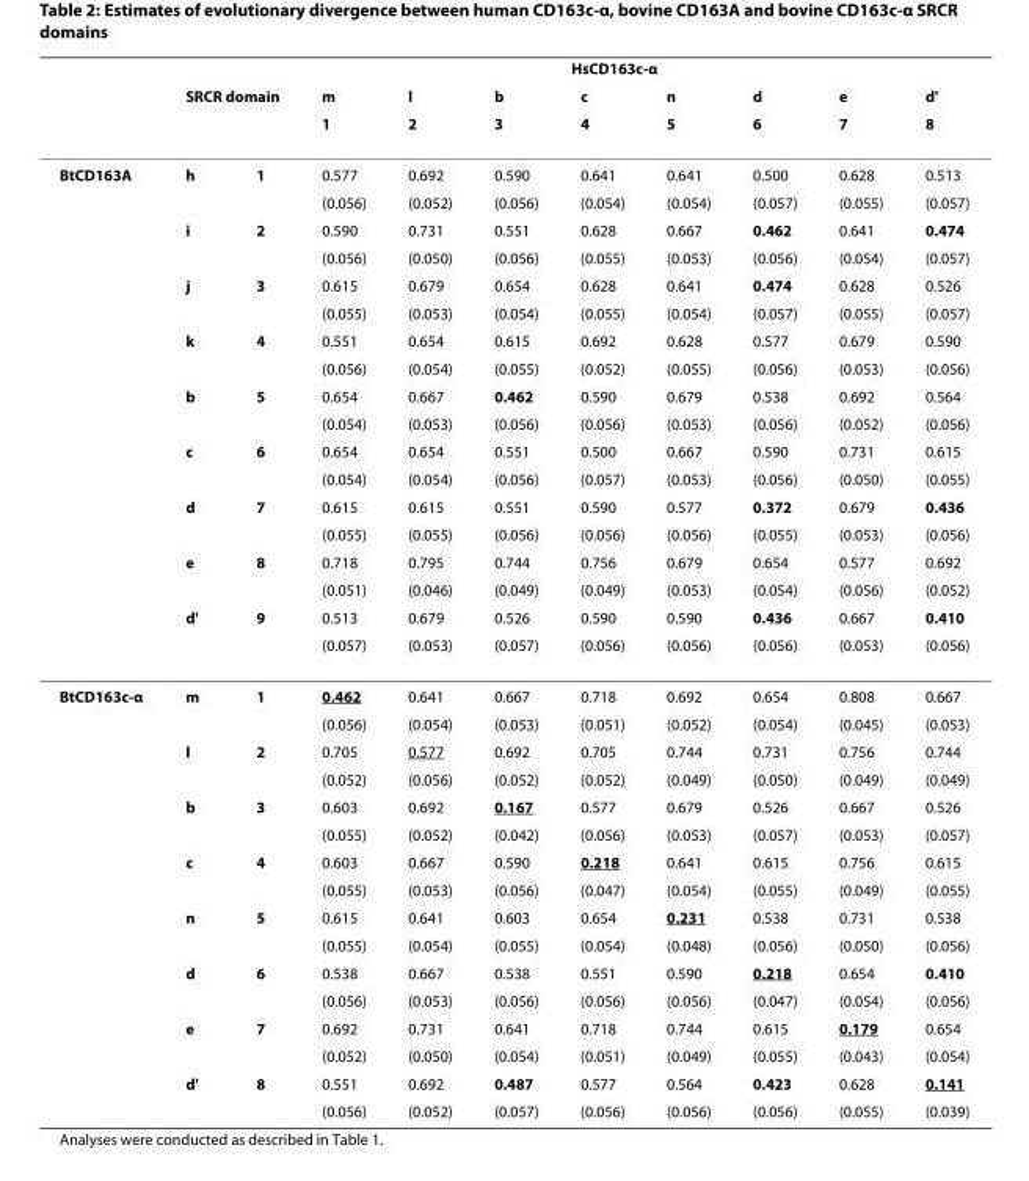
<table><thead><tr><td rowspan="3"></td><td></td><td colspan="9">HsCD163c-α</td></tr><tr><td colspan="2">SRCR domain</td><td rowspan="2">m 1</td><td rowspan="2">l 2</td><td rowspan="2">b 3</td><td rowspan="2">c 4</td><td rowspan="2">n 5</td><td rowspan="2">d 6</td><td rowspan="2">e 7</td><td rowspan="2">d&#x27; 8</td></tr><tr><td></td><td></td></tr></thead><tbody><tr><td rowspan="18">BtCD163A</td><td>h</td><td>1</td><td>0.577</td><td>0.692</td><td>0.590</td><td>0.641</td><td>0.641</td><td>0.500</td><td>0.628</td><td>0.513</td></tr><tr><td></td><td></td><td>(0.056)</td><td>(0.052)</td><td>(0.056)</td><td>(0.054)</td><td>(0.054)</td><td>(0.057)</td><td>(0.055)</td><td>(0.057)</td></tr><tr><td>i</td><td>2</td><td>0.590</td><td>0.731</td><td>0.551</td><td>0.628</td><td>0.667</td><td>0.462</td><td>0.641</td><td>0.474</td></tr><tr><td></td><td></td><td>(0.056)</td><td>(0.050)</td><td>(0.056)</td><td>(0.055)</td><td>(0.053)</td><td>(0.056)</td><td>(0.054)</td><td>(0.057)</td></tr><tr><td>j</td><td>3</td><td>0.615</td><td>0.679</td><td>0.654</td><td>0.628</td><td>0.641</td><td>0.474</td><td>0.628</td><td>0.526</td></tr><tr><td></td><td></td><td>(0.055)</td><td>(0.053)</td><td>(0.054)</td><td>(0.055)</td><td>(0.054)</td><td>(0.057)</td><td>(0.055)</td><td>(0.057)</td></tr><tr><td>k</td><td>4</td><td>0.551</td><td>0.654</td><td>0.615</td><td>0.692</td><td>0.628</td><td>0.577</td><td>0.679</td><td>0.590</td></tr><tr><td></td><td></td><td>(0.056)</td><td>(0.054)</td><td>(0.055)</td><td>(0.052)</td><td>(0.055)</td><td>(0.056)</td><td>(0.053)</td><td>(0.056)</td></tr><tr><td>b</td><td>5</td><td>0.654</td><td>0.667</td><td>0.462</td><td>0.590</td><td>0.679</td><td>0.538</td><td>0.692</td><td>0.564</td></tr><tr><td></td><td></td><td>(0.054)</td><td>(0.053)</td><td>(0.056)</td><td>(0.056)</td><td>(0.053)</td><td>(0.056)</td><td>(0.052)</td><td>(0.056)</td></tr><tr><td>c</td><td>6</td><td>0.654</td><td>0.654</td><td>0.551</td><td>0.500</td><td>0.667</td><td>0.590</td><td>0.731</td><td>0.615</td></tr><tr><td></td><td></td><td>(0.054)</td><td>(0.054)</td><td>(0.056)</td><td>(0.057)</td><td>(0.053)</td><td>(0.056)</td><td>(0.050)</td><td>(0.055)</td></tr><tr><td>d</td><td>7</td><td>0.615</td><td>0.615</td><td>0.551</td><td>0.590</td><td>0.577</td><td>0.372</td><td>0.679</td><td>0.436</td></tr><tr><td></td><td></td><td>(0.055)</td><td>(0.055)</td><td>(0.056)</td><td>(0.056)</td><td>(0.056)</td><td>(0.055)</td><td>(0.053)</td><td>(0.056)</td></tr><tr><td>e</td><td>8</td><td>0.718</td><td>0.795</td><td>0.744</td><td>0.756</td><td>0.679</td><td>0.654</td><td>0.577</td><td>0.692</td></tr><tr><td></td><td></td><td>(0.051)</td><td>(0.046)</td><td>(0.049)</td><td>(0.049)</td><td>(0.053)</td><td>(0.054)</td><td>(0.056)</td><td>(0.052)</td></tr><tr><td>d&#x27;</td><td>9</td><td>0.513</td><td>0.679</td><td>0.526</td><td>0.590</td><td>0.590</td><td>0.436</td><td>0.667</td><td>0.410</td></tr><tr><td></td><td></td><td>(0.057)</td><td>(0.053)</td><td>(0.057)</td><td>(0.056)</td><td>(0.056)</td><td>(0.056)</td><td>(0.053)</td><td>(0.056)</td></tr><tr><td rowspan="16">BtCD163c-α</td><td>m</td><td>1</td><td>0.462</td><td>0.641</td><td>0.667</td><td>0.718</td><td>0.692</td><td>0.654</td><td>0.808</td><td>0.667</td></tr><tr><td></td><td></td><td>(0.056)</td><td>(0.054)</td><td>(0.053)</td><td>(0.051)</td><td>(0.052)</td><td>(0.054)</td><td>(0.045)</td><td>(0.053)</td></tr><tr><td>l</td><td>2</td><td>0.705</td><td>0.577</td><td>0.692</td><td>0.705</td><td>0.744</td><td>0.731</td><td>0.756</td><td>0.744</td></tr><tr><td></td><td></td><td>(0.052)</td><td>(0.056)</td><td>(0.052)</td><td>(0.052)</td><td>(0.049)</td><td>(0.050)</td><td>(0.049)</td><td>(0.049)</td></tr><tr><td>b</td><td>3</td><td>0.603</td><td>0.692</td><td>0.167</td><td>0.577</td><td>0.679</td><td>0.526</td><td>0.667</td><td>0.526</td></tr><tr><td></td><td></td><td>(0.055)</td><td>(0.052)</td><td>(0.042)</td><td>(0.056)</td><td>(0.053)</td><td>(0.057)</td><td>(0.053)</td><td>(0.057)</td></tr><tr><td>c</td><td>4</td><td>0.603</td><td>0.667</td><td>0.590</td><td>0.218</td><td>0.641</td><td>0.615</td><td>0.756</td><td>0.615</td></tr><tr><td></td><td></td><td>(0.055)</td><td>(0.053)</td><td>(0.056)</td><td>(0.047)</td><td>(0.054)</td><td>(0.055)</td><td>(0.049)</td><td>(0.055)</td></tr><tr><td>n</td><td>5</td><td>0.615</td><td>0.641</td><td>0.603</td><td>0.654</td><td>0.231</td><td>0.538</td><td>0.731</td><td>0.538</td></tr><tr><td></td><td></td><td>(0.055)</td><td>(0.054)</td><td>(0.055)</td><td>(0.054)</td><td>(0.048)</td><td>(0.056)</td><td>(0.050)</td><td>(0.056)</td></tr><tr><td>d</td><td>6</td><td>0.538</td><td>0.667</td><td>0.538</td><td>0.551</td><td>0.590</td><td>0.218</td><td>0.654</td><td>0.410</td></tr><tr><td></td><td></td><td>(0.056)</td><td>(0.053)</td><td>(0.056)</td><td>(0.056)</td><td>(0.056)</td><td>(0.047)</td><td>(0.054)</td><td>(0.056)</td></tr><tr><td>e</td><td>7</td><td>0.692</td><td>0.731</td><td>0.641</td><td>0.718</td><td>0.744</td><td>0.615</td><td>0.179</td><td>0.654</td></tr><tr><td></td><td></td><td>(0.052)</td><td>(0.050)</td><td>(0.054)</td><td>(0.051)</td><td>(0.049)</td><td>(0.055)</td><td>(0.043)</td><td>(0.054)</td></tr><tr><td>d&#x27;</td><td>8</td><td>0.551</td><td>0.692</td><td>0.487</td><td>0.577</td><td>0.564</td><td>0.423</td><td>0.628</td><td>0.141</td></tr><tr><td></td><td></td><td>(0.056)</td><td>(0.052)</td><td>(0.057)</td><td>(0.056)</td><td>(0.056)</td><td>(0.056)</td><td>(0.055)</td><td>(0.039)</td></tr></tbody></table>